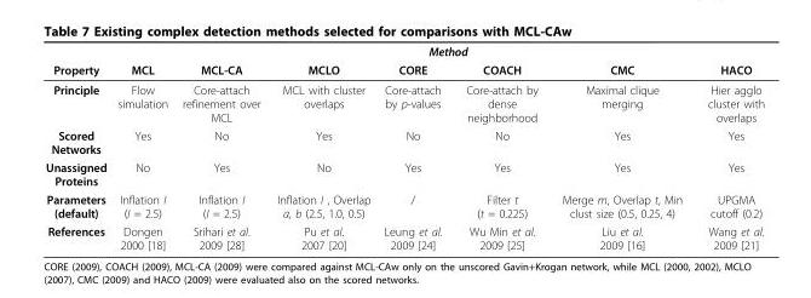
<table><thead><tr><td rowspan="2">Property</td><td colspan="7">Method</td></tr><tr><td>MCL</td><td>MCL-CA</td><td>MCLO</td><td>CORE</td><td>COACH</td><td>CMC</td><td>HACO</td></tr></thead><tbody><tr><td>Principle</td><td>Flow simulation</td><td>Core-attach refinement over MCL</td><td>MCL with cluster overlaps</td><td>Core-attach by p-values</td><td>Core-attach by dense neighborhood</td><td>Maximal clique merging</td><td>Hier agglo cluster with overlaps</td></tr><tr><td>Scored Networks</td><td>Yes</td><td>No</td><td>Yes</td><td>No</td><td>No</td><td>Yes</td><td>Yes</td></tr><tr><td>Unassigned Proteins</td><td>No</td><td>Yes</td><td>No</td><td>Yes</td><td>Yes</td><td>Yes</td><td>Yes</td></tr><tr><td>Parameters (default)</td><td>Inflation I (I = 2.5)</td><td>Inflation I (I = 2.5)</td><td>Inflation I , Overlap a, b (2.5, 1.0, 0.5)</td><td>/</td><td>Filter t (t = 0.225)</td><td>Merge m, Overlap t, Min clust size (0.5, 0.25, 4)</td><td>UPGMA cutoff (0.2)</td></tr><tr><td>References</td><td>Dongen 2000 [18]</td><td>Srihari et al. 2009 [28]</td><td>Pu et al. 2007 [20]</td><td>Leung et al. 2009 [24]</td><td>Wu Min et al. 2009 [25]</td><td>Liu et al. 2009 [16]</td><td>Wang et al. 2009 [21]</td></tr></tbody></table>